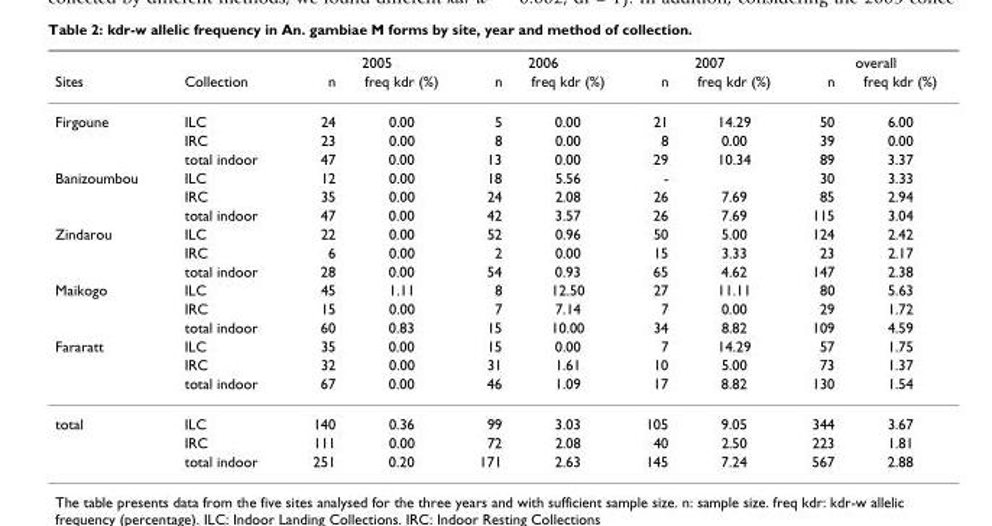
<table><thead><tr><td rowspan="2">Sites</td><td rowspan="2">Collection</td><td colspan="2">2005</td><td colspan="2">2006</td><td colspan="2">2007</td><td colspan="2">overall</td></tr><tr><td>n</td><td>freq kdr (%)</td><td>n</td><td>freq kdr (%)</td><td>n</td><td>freq kdr (%)</td><td>n</td><td>freq kdr (%)</td></tr></thead><tbody><tr><td rowspan="3">Firgoune</td><td>ILC</td><td>24</td><td>0.00</td><td>5</td><td>0.00</td><td>21</td><td>14.29</td><td>50</td><td>6.00</td></tr><tr><td>IRC</td><td>23</td><td>0.00</td><td>8</td><td>0.00</td><td>8</td><td>0.00</td><td>39</td><td>0.00</td></tr><tr><td>total indoor</td><td>47</td><td>0.00</td><td>13</td><td>0.00</td><td>29</td><td>10.34</td><td>89</td><td>3.37</td></tr><tr><td rowspan="3">Banizoumbou</td><td>ILC</td><td>12</td><td>0.00</td><td>18</td><td>5.56</td><td>-</td><td></td><td>30</td><td>3.33</td></tr><tr><td>IRC</td><td>35</td><td>0.00</td><td>24</td><td>2.08</td><td>26</td><td>7.69</td><td>85</td><td>2.94</td></tr><tr><td>total indoor</td><td>47</td><td>0.00</td><td>42</td><td>3.57</td><td>26</td><td>7.69</td><td>115</td><td>3.04</td></tr><tr><td rowspan="3">Zindarou</td><td>ILC</td><td>22</td><td>0.00</td><td>52</td><td>0.96</td><td>50</td><td>5.00</td><td>124</td><td>2.42</td></tr><tr><td>IRC</td><td>6</td><td>0.00</td><td>2</td><td>0.00</td><td>15</td><td>3.33</td><td>23</td><td>2.17</td></tr><tr><td>total indoor</td><td>28</td><td>0.00</td><td>54</td><td>0.93</td><td>65</td><td>4.62</td><td>147</td><td>2.38</td></tr><tr><td rowspan="3">Maikogo</td><td>ILC</td><td>45</td><td>1.11</td><td>8</td><td>12.50</td><td>27</td><td>11.11</td><td>80</td><td>5.63</td></tr><tr><td>IRC</td><td>15</td><td>0.00</td><td>7</td><td>7.14</td><td>7</td><td>0.00</td><td>29</td><td>1.72</td></tr><tr><td>total indoor</td><td>60</td><td>0.83</td><td>15</td><td>10.00</td><td>34</td><td>8.82</td><td>109</td><td>4.59</td></tr><tr><td rowspan="3">Fararatt</td><td>ILC</td><td>35</td><td>0.00</td><td>15</td><td>0.00</td><td>7</td><td>14.29</td><td>57</td><td>1.75</td></tr><tr><td>IRC</td><td>32</td><td>0.00</td><td>31</td><td>1.61</td><td>10</td><td>5.00</td><td>73</td><td>1.37</td></tr><tr><td>total indoor</td><td>67</td><td>0.00</td><td>46</td><td>1.09</td><td>17</td><td>8.82</td><td>130</td><td>1.54</td></tr><tr><td rowspan="3">total</td><td>ILC</td><td>140</td><td>0.36</td><td>99</td><td>3.03</td><td>105</td><td>9.05</td><td>344</td><td>3.67</td></tr><tr><td>IRC</td><td>111</td><td>0.00</td><td>72</td><td>2.08</td><td>40</td><td>2.50</td><td>223</td><td>1.81</td></tr><tr><td>total indoor</td><td>251</td><td>0.20</td><td>171</td><td>2.63</td><td>145</td><td>7.24</td><td>567</td><td>2.88</td></tr></tbody></table>